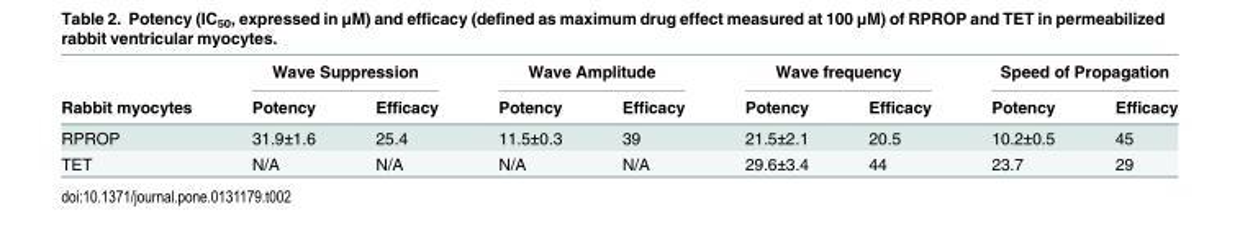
<table><thead><tr><td rowspan="2">Rabbit myocytes</td><td colspan="2">Wave Suppression</td><td colspan="2">Wave Amplitude</td><td colspan="2">Wave frequency</td><td colspan="2">Speed of Propagation</td></tr><tr><td>Potency</td><td>Efficacy</td><td>Potency</td><td>Efficacy</td><td>Potency</td><td>Efficacy</td><td>Potency</td><td>Efficacy</td></tr></thead><tbody><tr><td>RPROP</td><td>31.9±1.6</td><td>25.4</td><td>11.5±0.3</td><td>39</td><td>21.5±2.1</td><td>20.5</td><td>10.2±0.5</td><td>45</td></tr><tr><td>TET</td><td>N/A</td><td>N/A</td><td>N/A</td><td>N/A</td><td>29.6±3.4</td><td>44</td><td>23.7</td><td>29</td></tr></tbody></table>